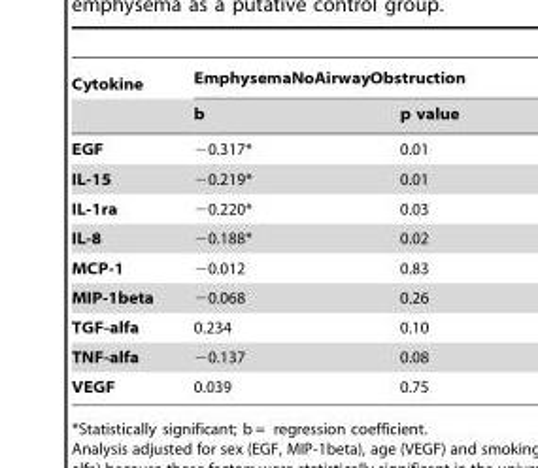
<table><thead><tr><td rowspan="2">Cytokine</td><td colspan="2">EmphysemaNoAirwayObstruction</td></tr><tr><td>b</td><td>p value</td></tr></thead><tbody><tr><td>EGF</td><td>−0.317*</td><td>0.01</td></tr><tr><td>IL-15</td><td>−0.219*</td><td>0.01</td></tr><tr><td>IL-1ra</td><td>−0.220*</td><td>0.03</td></tr><tr><td>IL-8</td><td>−0.188*</td><td>0.02</td></tr><tr><td>MCP-1</td><td>−0.012</td><td>0.83</td></tr><tr><td>MIP-1beta</td><td>−0.068</td><td>0.26</td></tr><tr><td>TGF-alfa</td><td>0.234</td><td>0.10</td></tr><tr><td>TNF-alfa</td><td>−0.137</td><td>0.08</td></tr><tr><td>VEGF</td><td>0.039</td><td>0.75</td></tr></tbody></table>